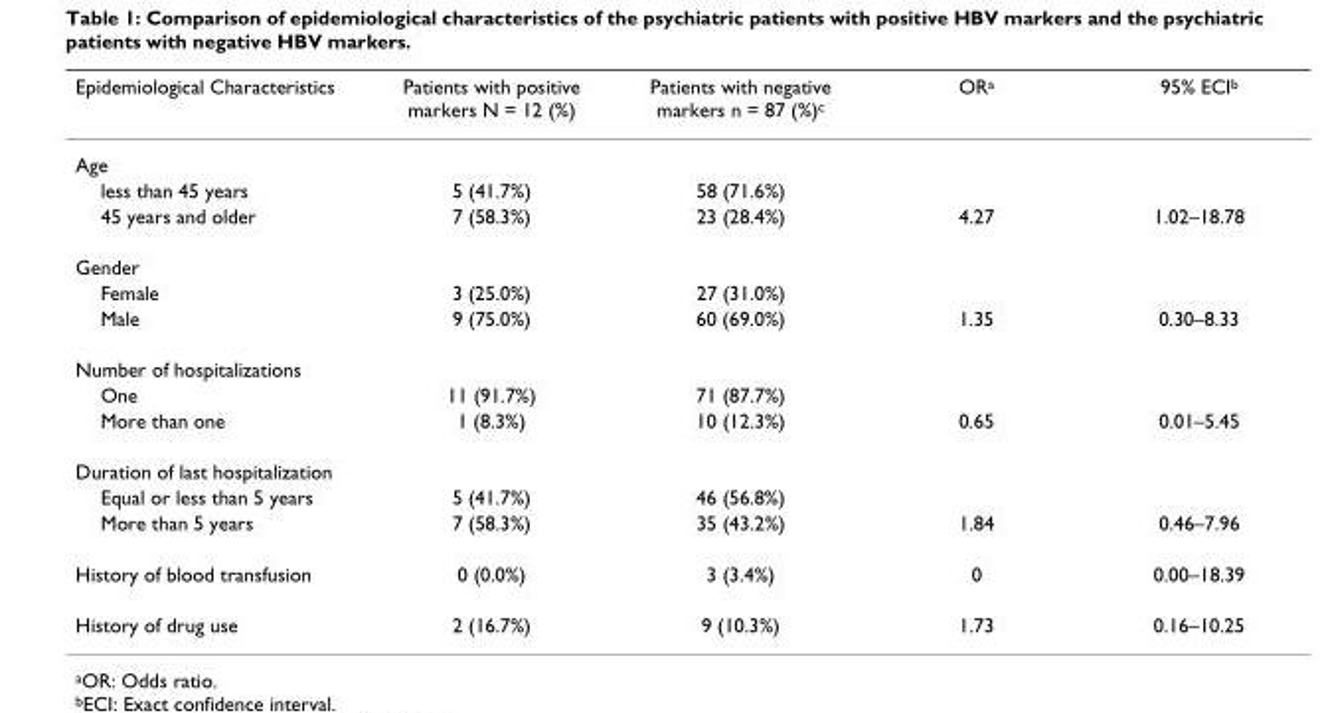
<table><thead><tr><td>Epidemiological Characteristics</td><td>Patients with positive markers N = 12 (%)</td><td>Patients with negative markers n = 87 (%)<sup>c</sup></td><td>OR<sup>a</sup></td><td>95% ECI<sup>b</sup></td></tr></thead><tbody><tr><td colspan="5">Age</td></tr><tr><td>less than 45 years</td><td>5 (41.7%)</td><td>58 (71.6%)</td><td></td><td></td></tr><tr><td>45 years and older</td><td>7 (58.3%)</td><td>23 (28.4%)</td><td>4.27</td><td>1.02–18.78</td></tr><tr><td colspan="5">Gender</td></tr><tr><td>Female</td><td>3 (25.0%)</td><td>27 (31.0%)</td><td></td><td></td></tr><tr><td>Male</td><td>9 (75.0%)</td><td>60 (69.0%)</td><td>1.35</td><td>0.30–8.33</td></tr><tr><td colspan="5">Number of hospitalizations</td></tr><tr><td>One</td><td>11 (91.7%)</td><td>71 (87.7%)</td><td></td><td></td></tr><tr><td>More than one</td><td>1 (8.3%)</td><td>10 (12.3%)</td><td>0.65</td><td>0.01–5.45</td></tr><tr><td colspan="5">Duration of last hospitalization</td></tr><tr><td>Equal or less than 5 years</td><td>5 (41.7%)</td><td>46 (56.8%)</td><td></td><td></td></tr><tr><td>More than 5 years</td><td>7 (58.3%)</td><td>35 (43.2%)</td><td>1.84</td><td>0.46–7.96</td></tr><tr><td>History of blood transfusion</td><td>0 (0.0%)</td><td>3 (3.4%)</td><td>0</td><td>0.00–18.39</td></tr><tr><td>History of drug use</td><td>2 (16.7%)</td><td>9 (10.3%)</td><td>1.73</td><td>0.16–10.25</td></tr></tbody></table>